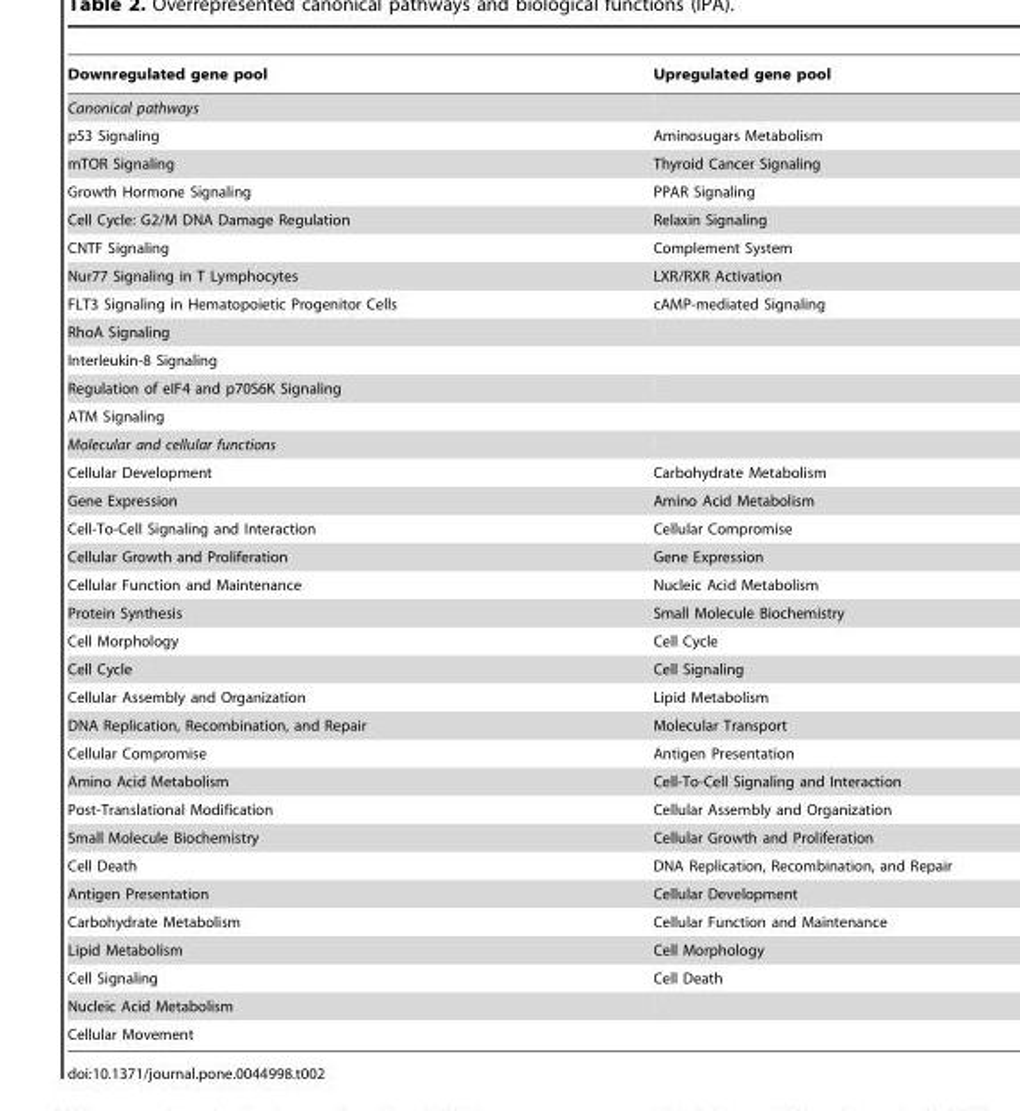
<table><thead><tr><td>Downregulated gene pool</td><td>Upregulated gene pool</td></tr></thead><tbody><tr><td colspan="2">Canonical pathways</td></tr><tr><td>p53 Signaling</td><td>Aminosugars Metabolism</td></tr><tr><td>mTOR Signaling</td><td>Thyroid Cancer Signaling</td></tr><tr><td>Growth Hormone Signaling</td><td>PPAR Signaling</td></tr><tr><td>Cell Cycle: G2/M DNA Damage Regulation</td><td>Relaxin Signaling</td></tr><tr><td>CNTF Signaling</td><td>Complement System</td></tr><tr><td>Nur77 Signaling in T Lymphocytes</td><td>LXR/RXR Activation</td></tr><tr><td>FLT3 Signaling in Hematopoietic Progenitor Cells</td><td>cAMP-mediated Signaling</td></tr><tr><td colspan="2">RhoA Signaling</td></tr><tr><td colspan="2">Interleukin-8 Signaling</td></tr><tr><td colspan="2">Regulation of eIF4 and p70S6K Signaling</td></tr><tr><td colspan="2">ATM Signaling</td></tr><tr><td colspan="2">Molecular and cellular functions</td></tr><tr><td>Cellular Development</td><td>Carbohydrate Metabolism</td></tr><tr><td>Gene Expression</td><td>Amino Acid Metabolism</td></tr><tr><td>Cell-To-Cell Signaling and Interaction</td><td>Cellular Compromise</td></tr><tr><td>Cellular Growth and Proliferation</td><td>Gene Expression</td></tr><tr><td>Cellular Function and Maintenance</td><td>Nucleic Acid Metabolism</td></tr><tr><td>Protein Synthesis</td><td>Small Molecule Biochemistry</td></tr><tr><td>Cell Morphology</td><td>Cell Cycle</td></tr><tr><td>Cell Cycle</td><td>Cell Signaling</td></tr><tr><td>Cellular Assembly and Organization</td><td>Lipid Metabolism</td></tr><tr><td>DNA Replication, Recombination, and Repair</td><td>Molecular Transport</td></tr><tr><td>Cellular Compromise</td><td>Antigen Presentation</td></tr><tr><td>Amino Acid Metabolism</td><td>Cell-To-Cell Signaling and Interaction</td></tr><tr><td>Post-Translational Modification</td><td>Cellular Assembly and Organization</td></tr><tr><td>Small Molecule Biochemistry</td><td>Cellular Growth and Proliferation</td></tr><tr><td>Cell Death</td><td>DNA Replication, Recombination, and Repair</td></tr><tr><td>Antigen Presentation</td><td>Cellular Development</td></tr><tr><td>Carbohydrate Metabolism</td><td>Cellular Function and Maintenance</td></tr><tr><td>Lipid Metabolism</td><td>Cell Morphology</td></tr><tr><td>Cell Signaling</td><td>Cell Death</td></tr><tr><td colspan="2">Nucleic Acid Metabolism</td></tr><tr><td>Cellular Movement</td><td></td></tr></tbody></table>